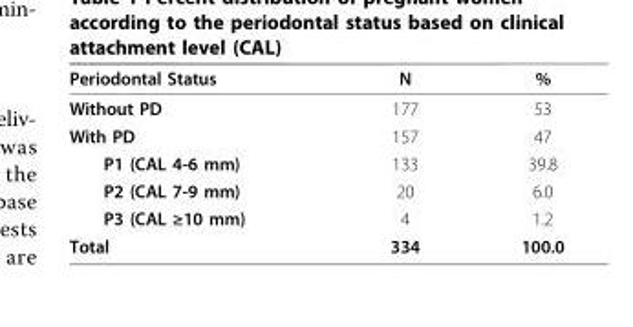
<table><thead><tr><td>Periodontal Status</td><td>N</td><td>%</td></tr></thead><tbody><tr><td>Without PD</td><td>177</td><td>53</td></tr><tr><td>With PD</td><td>157</td><td>47</td></tr><tr><td>P1 (CAL 4-6 mm)</td><td>133</td><td>39.8</td></tr><tr><td>P2 (CAL 7-9 mm)</td><td>20</td><td>6.0</td></tr><tr><td>P3 (CAL ≥10 mm)</td><td>4</td><td>1.2</td></tr><tr><td>Total</td><td>334</td><td>100.0</td></tr></tbody></table>